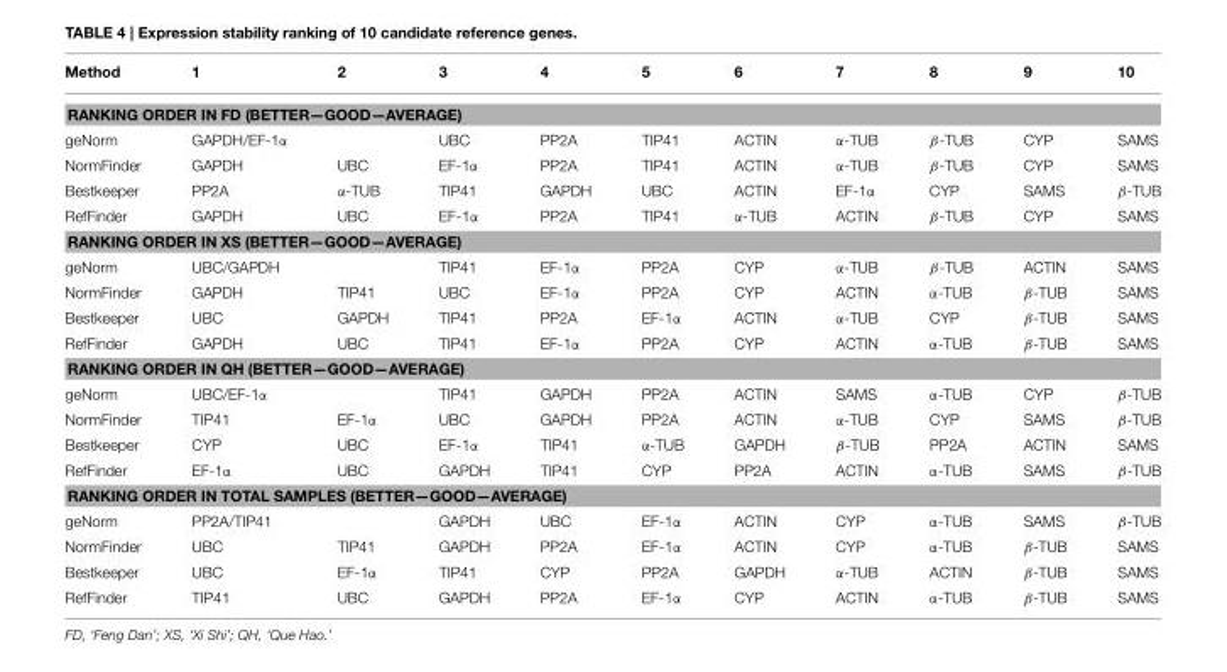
<table><thead><tr><td>Method</td><td>1</td><td>2</td><td>3</td><td>4</td><td>5</td><td>6</td><td>7</td><td>8</td><td>9</td><td>10</td></tr></thead><tbody><tr><td colspan="11">RANKING ORDER IN FD (BETTER—GOOD—AVERAGE)</td></tr><tr><td>geNorm</td><td>GAPDH/EF-1α</td><td></td><td>UBC</td><td>PP2A</td><td>TIP41</td><td>ACTIN</td><td>α-TUB</td><td>β-TUB</td><td>CYP</td><td>SAMS</td></tr><tr><td>NormFinder</td><td>GAPDH</td><td>UBC</td><td>EF-1α</td><td>PP2A</td><td>TIP41</td><td>ACTIN</td><td>α-TUB</td><td>β-TUB</td><td>CYP</td><td>SAMS</td></tr><tr><td>Bestkeeper</td><td>PP2A</td><td>α-TUB</td><td>TIP41</td><td>GAPDH</td><td>UBC</td><td>ACTIN</td><td>EF-1α</td><td>CYP</td><td>SAMS</td><td>β-TUB</td></tr><tr><td>RefFinder</td><td>GAPDH</td><td>UBC</td><td>EF-1α</td><td>PP2A</td><td>TIP41</td><td>α-TUB</td><td>ACTIN</td><td>β-TUB</td><td>CYP</td><td>SAMS</td></tr><tr><td colspan="11">RANKING ORDER IN XS (BETTER—GOOD—AVERAGE)</td></tr><tr><td>geNorm</td><td>UBC/GAPDH</td><td></td><td>TIP41</td><td>EF-1α</td><td>PP2A</td><td>CYP</td><td>α-TUB</td><td>β-TUB</td><td>ACTIN</td><td>SAMS</td></tr><tr><td>NormFinder</td><td>GAPDH</td><td>TIP41</td><td>UBC</td><td>EF-1α</td><td>PP2A</td><td>CYP</td><td>ACTIN</td><td>α-TUB</td><td>β-TUB</td><td>SAMS</td></tr><tr><td>Bestkeeper</td><td>UBC</td><td>GAPDH</td><td>TIP41</td><td>PP2A</td><td>EF-1α</td><td>ACTIN</td><td>α-TUB</td><td>CYP</td><td>β-TUB</td><td>SAMS</td></tr><tr><td>RefFinder</td><td>GAPDH</td><td>UBC</td><td>TIP41</td><td>EF-1α</td><td>PP2A</td><td>CYP</td><td>ACTIN</td><td>α-TUB</td><td>β-TUB</td><td>SAMS</td></tr><tr><td colspan="11">RANKING ORDER IN QH (BETTER—GOOD—AVERAGE)</td></tr><tr><td>geNorm</td><td>UBC/EF-1α</td><td></td><td>TIP41</td><td>GAPDH</td><td>PP2A</td><td>ACTIN</td><td>SAMS</td><td>α-TUB</td><td>CYP</td><td>β-TUB</td></tr><tr><td>NormFinder</td><td>TIP41</td><td>EF-1α</td><td>UBC</td><td>GAPDH</td><td>PP2A</td><td>ACTIN</td><td>α-TUB</td><td>CYP</td><td>SAMS</td><td>β-TUB</td></tr><tr><td>Bestkeeper</td><td>CYP</td><td>UBC</td><td>EF-1α</td><td>TIP41</td><td>α-TUB</td><td>GAPDH</td><td>β-TUB</td><td>PP2A</td><td>ACTIN</td><td>SAMS</td></tr><tr><td>RefFinder</td><td>EF-1α</td><td>UBC</td><td>GAPDH</td><td>TIP41</td><td>CYP</td><td>PP2A</td><td>ACTIN</td><td>α-TUB</td><td>SAMS</td><td>β-TUB</td></tr><tr><td colspan="11">RANKING ORDER IN TOTAL SAMPLES (BETTER—GOOD—AVERAGE)</td></tr><tr><td>geNorm</td><td>PP2A/TIP41</td><td></td><td>GAPDH</td><td>UBC</td><td>EF-1α</td><td>ACTIN</td><td>CYP</td><td>α-TUB</td><td>SAMS</td><td>β-TUB</td></tr><tr><td>NormFinder</td><td>UBC</td><td>TIP41</td><td>GAPDH</td><td>PP2A</td><td>EF-1α</td><td>ACTIN</td><td>CYP</td><td>α-TUB</td><td>β-TUB</td><td>SAMS</td></tr><tr><td>Bestkeeper</td><td>UBC</td><td>EF-1α</td><td>TIP41</td><td>CYP</td><td>PP2A</td><td>GAPDH</td><td>α-TUB</td><td>ACTIN</td><td>β-TUB</td><td>SAMS</td></tr><tr><td>RefFinder</td><td>TIP41</td><td>UBC</td><td>GAPDH</td><td>PP2A</td><td>EF-1α</td><td>CYP</td><td>ACTIN</td><td>α-TUB</td><td>β-TUB</td><td>SAMS</td></tr></tbody></table>